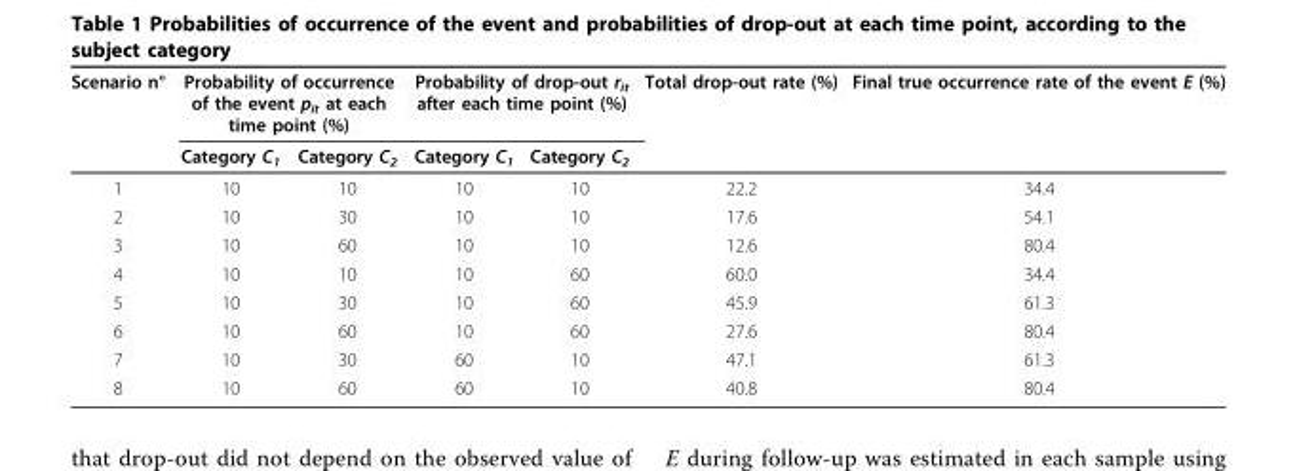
<table><thead><tr><td rowspan="2">Scenario n°</td><td colspan="2">Probability of occurrence of the event p<sub>it</sub> at each time point (%)</td><td colspan="2">Probability of drop-out r<sub>it</sub> after each time point (%)</td><td rowspan="2">Total drop-out rate (%)</td><td rowspan="2">Final true occurrence rate of the event E (%)</td></tr><tr><td>Category C<sub>1</sub></td><td>Category C<sub>2</sub></td><td>Category C<sub>1</sub></td><td>Category C<sub>2</sub></td></tr></thead><tbody><tr><td>1</td><td>10</td><td>10</td><td>10</td><td>10</td><td>22.2</td><td>34.4</td></tr><tr><td>2</td><td>10</td><td>30</td><td>10</td><td>10</td><td>17.6</td><td>54.1</td></tr><tr><td>3</td><td>10</td><td>60</td><td>10</td><td>10</td><td>12.6</td><td>80.4</td></tr><tr><td>4</td><td>10</td><td>10</td><td>10</td><td>60</td><td>60.0</td><td>34.4</td></tr><tr><td>5</td><td>10</td><td>30</td><td>10</td><td>60</td><td>45.9</td><td>61.3</td></tr><tr><td>6</td><td>10</td><td>60</td><td>10</td><td>60</td><td>27.6</td><td>80.4</td></tr><tr><td>7</td><td>10</td><td>30</td><td>60</td><td>10</td><td>47.1</td><td>61.3</td></tr><tr><td>8</td><td>10</td><td>60</td><td>60</td><td>10</td><td>40.8</td><td>80.4</td></tr></tbody></table>